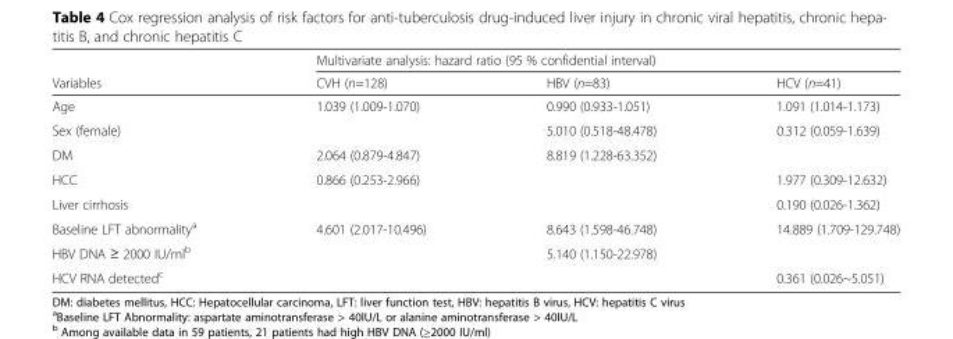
<table><thead><tr><td rowspan="2">Variables</td><td colspan="3">Multivariate analysis: hazard ratio (95 % confidential interval)</td></tr><tr><td>CVH (n=128)</td><td>HBV (n=83)</td><td>HCV (n=41)</td></tr></thead><tbody><tr><td>Age</td><td>1.039 (1.009-1.070)</td><td>0.990 (0.933-1.051)</td><td>1.091 (1.014-1.173)</td></tr><tr><td>Sex (female)</td><td></td><td>5.010 (0.518-48.478)</td><td>0.312 (0.059-1.639)</td></tr><tr><td>DM</td><td>2.064 (0.879-4.847)</td><td>8.819 (1.228-63.352)</td><td></td></tr><tr><td>HCC</td><td>0.866 (0.253-2.966)</td><td></td><td>1.977 (0.309-12.632)</td></tr><tr><td>Liver cirrhosis</td><td></td><td></td><td>0.190 (0.026-1.362)</td></tr><tr><td>Baseline LFT abnormality<sup>a</sup></td><td>4.601 (2.017-10.496)</td><td>8.643 (1.598-46.748)</td><td>14.889 (1.709-129.748)</td></tr><tr><td>HBV DNA ≥ 2000 IU/ml<sup>b</sup></td><td></td><td>5.140 (1.150-22.978)</td><td></td></tr><tr><td>HCV RNA detected<sup>c</sup></td><td></td><td></td><td>0.361 (0.026~5.051)</td></tr></tbody></table>